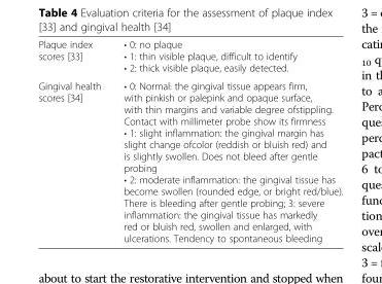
<table><tbody><tr><td>Plaque index scores [33]</td><td>• 0: no plaque • 1: thin visible plaque, difficult to identify • 2: thick visible plaque, easily detected.</td></tr><tr><td>Gingival health scores [34]</td><td>• 0: Normal: the gingival tissue appears firm, with pinkish or palepink and opaque surface, with thin margins and variable degree ofstippling. Contact with millimeter probe show its firmness • 1: slight inflammation: the gingival margin has slight change ofcolor (reddish or bluish red) and is slightly swollen. Does not bleed after gentle probing • 2: moderate inflammation: the gingival tissue has become swollen (rounded edge, or bright red/blue). There is bleeding after gentle probing; 3: severe inflammation: the gingival tissue has markedly red or bluish red, swollen and enlarged, with ulcerations. Tendency to spontaneous bleeding</td></tr></tbody></table>